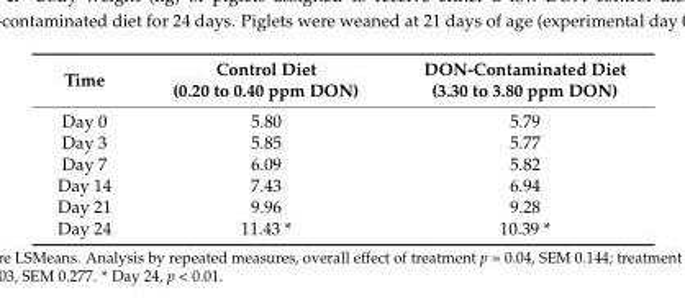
<table><thead><tr><td>Time</td><td>Control Diet (0.20 to 0.40 ppm DON)</td><td>DON-Contaminated Diet (3.30 to 3.80 ppm DON)</td></tr></thead><tbody><tr><td>Day 0</td><td>5.80</td><td>5.79</td></tr><tr><td>Day 3</td><td>5.85</td><td>5.77</td></tr><tr><td>Day 7</td><td>6.09</td><td>5.82</td></tr><tr><td>Day 14</td><td>7.43</td><td>6.94</td></tr><tr><td>Day 21</td><td>9.96</td><td>9.28</td></tr><tr><td>Day 24</td><td>11.43 *</td><td>10.39 *</td></tr></tbody></table>